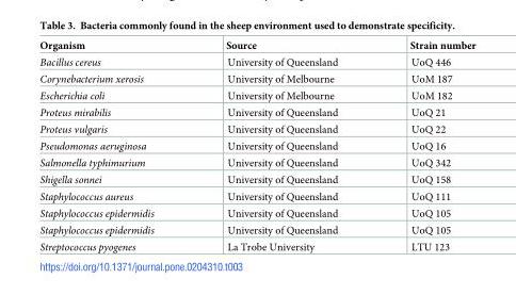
<table><thead><tr><td>Organism</td><td>Source</td><td>Strain number</td></tr></thead><tbody><tr><td>Bacillus cereus</td><td>University of Queensland</td><td>UoQ 446</td></tr><tr><td>Corynebacterium xerosis</td><td>University of Melbourne</td><td>UoM 187</td></tr><tr><td>Escherichia coli</td><td>University of Melbourne</td><td>UoM 182</td></tr><tr><td>Proteus mirabilis</td><td>University of Queensland</td><td>UoQ 21</td></tr><tr><td>Proteus vulgaris</td><td>University of Queensland</td><td>UoQ 22</td></tr><tr><td>Pseudomonas aeruginosa</td><td>University of Queensland</td><td>UoQ 16</td></tr><tr><td>Salmonella typhimurium</td><td>University of Queensland</td><td>UoQ 342</td></tr><tr><td>Shigella sonnei</td><td>University of Queensland</td><td>UoQ 158</td></tr><tr><td>Staphylococcus aureus</td><td>University of Queensland</td><td>UoQ 111</td></tr><tr><td>Staphylococcus epidermidis</td><td>University of Queensland</td><td>UoQ 105</td></tr><tr><td>Staphylococcus epidermidis</td><td>University of Queensland</td><td>UoQ 105</td></tr><tr><td>Streptococcus pyogenes</td><td>La Trobe University</td><td>LTU 123</td></tr></tbody></table>